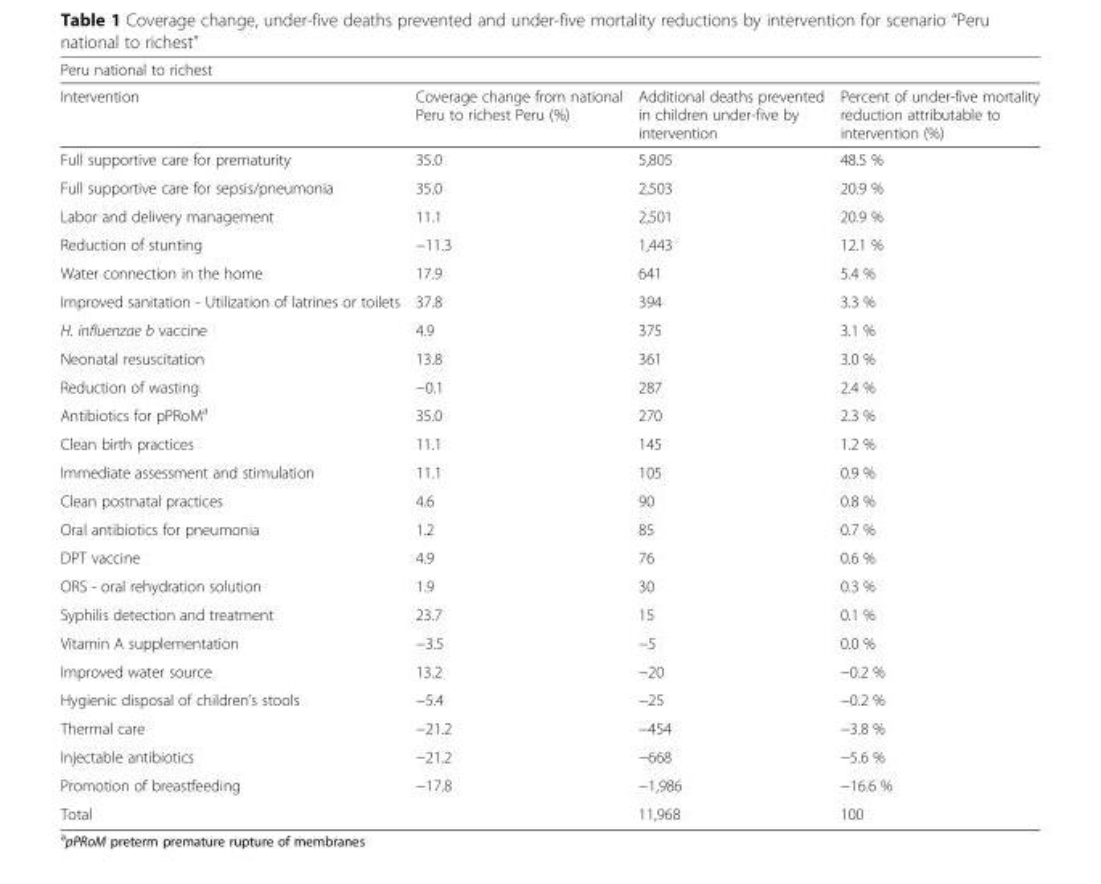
<table><thead><tr><td colspan="4">Peru national to richest</td></tr><tr><td>Intervention</td><td>Coverage change from national Peru to richest Peru (%)</td><td>Additional deaths prevented in children under-five by intervention</td><td>Percent of under-five mortality reduction attributable to intervention (%)</td></tr></thead><tbody><tr><td>Full supportive care for prematurity</td><td>35.0</td><td>5,805</td><td>48.5 %</td></tr><tr><td>Full supportive care for sepsis/pneumonia</td><td>35.0</td><td>2,503</td><td>20.9 %</td></tr><tr><td>Labor and delivery management</td><td>11.1</td><td>2,501</td><td>20.9 %</td></tr><tr><td>Reduction of stunting</td><td>−11.3</td><td>1,443</td><td>12.1 %</td></tr><tr><td>Water connection in the home</td><td>17.9</td><td>641</td><td>5.4 %</td></tr><tr><td>Improved sanitation - Utilization of latrines or toilets</td><td>37.8</td><td>394</td><td>3.3 %</td></tr><tr><td>H. influenzae b vaccine</td><td>4.9</td><td>375</td><td>3.1 %</td></tr><tr><td>Neonatal resuscitation</td><td>13.8</td><td>361</td><td>3.0 %</td></tr><tr><td>Reduction of wasting</td><td>−0.1</td><td>287</td><td>2.4 %</td></tr><tr><td>Antibiotics for pPRoM<sup>a</sup></td><td>35.0</td><td>270</td><td>2.3 %</td></tr><tr><td>Clean birth practices</td><td>11.1</td><td>145</td><td>1.2 %</td></tr><tr><td>Immediate assessment and stimulation</td><td>11.1</td><td>105</td><td>0.9 %</td></tr><tr><td>Clean postnatal practices</td><td>4.6</td><td>90</td><td>0.8 %</td></tr><tr><td>Oral antibiotics for pneumonia</td><td>1.2</td><td>85</td><td>0.7 %</td></tr><tr><td>DPT vaccine</td><td>4.9</td><td>76</td><td>0.6 %</td></tr><tr><td>ORS - oral rehydration solution</td><td>1.9</td><td>30</td><td>0.3 %</td></tr><tr><td>Syphilis detection and treatment</td><td>23.7</td><td>15</td><td>0.1 %</td></tr><tr><td>Vitamin A supplementation</td><td>−3.5</td><td>−5</td><td>0.0 %</td></tr><tr><td>Improved water source</td><td>13.2</td><td>−20</td><td>−0.2 %</td></tr><tr><td>Hygienic disposal of children’s stools</td><td>−5.4</td><td>−25</td><td>−0.2 %</td></tr><tr><td>Thermal care</td><td>−21.2</td><td>−454</td><td>−3.8 %</td></tr><tr><td>Injectable antibiotics</td><td>−21.2</td><td>−668</td><td>−5.6 %</td></tr><tr><td>Promotion of breastfeeding</td><td>−17.8</td><td>−1,986</td><td>−16.6 %</td></tr><tr><td>Total</td><td></td><td>11,968</td><td>100</td></tr></tbody></table>